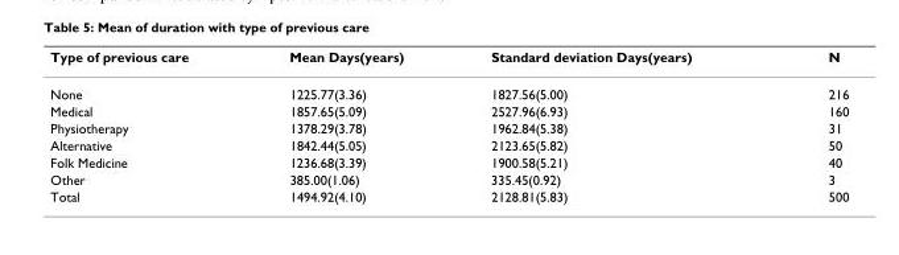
<table><thead><tr><td>Type of previous care</td><td>Mean Days(years)</td><td>Standard deviation Days(years)</td><td>N</td></tr></thead><tbody><tr><td>None</td><td>1225.77(3.36)</td><td>1827.56(5.00)</td><td>216</td></tr><tr><td>Medical</td><td>1857.65(5.09)</td><td>2527.96(6.93)</td><td>160</td></tr><tr><td>Physiotherapy</td><td>1378.29(3.78)</td><td>1962.84(5.38)</td><td>31</td></tr><tr><td>Alternative</td><td>1842.44(5.05)</td><td>2123.65(5.82)</td><td>50</td></tr><tr><td>Folk Medicine</td><td>1236.68(3.39)</td><td>1900.58(5.21)</td><td>40</td></tr><tr><td>Other</td><td>385.00(1.06)</td><td>335.45(0.92)</td><td>3</td></tr><tr><td>Total</td><td>1494.92(4.10)</td><td>2128.81(5.83)</td><td>500</td></tr></tbody></table>